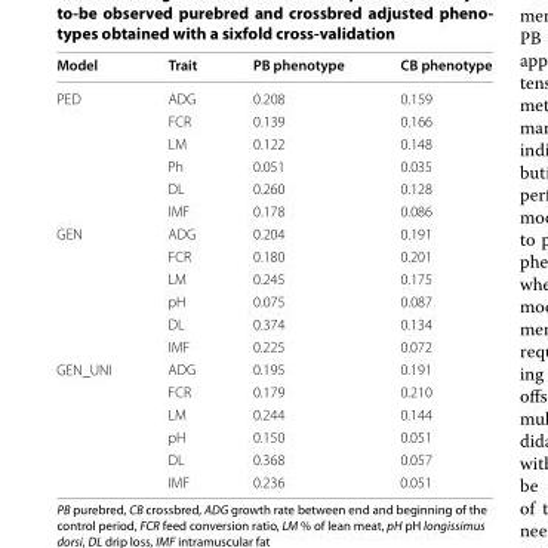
<table><thead><tr><td>Model</td><td>Trait</td><td>PB phenotype</td><td>CB phenotype</td></tr></thead><tbody><tr><td rowspan="6">PED</td><td>ADG</td><td>0.208</td><td>0.159</td></tr><tr><td>FCR</td><td>0.139</td><td>0.166</td></tr><tr><td>LM</td><td>0.122</td><td>0.148</td></tr><tr><td>Ph</td><td>0.051</td><td>0.035</td></tr><tr><td>DL</td><td>0.260</td><td>0.128</td></tr><tr><td>IMF</td><td>0.178</td><td>0.086</td></tr><tr><td rowspan="6">GEN</td><td>ADG</td><td>0.204</td><td>0.191</td></tr><tr><td>FCR</td><td>0.180</td><td>0.201</td></tr><tr><td>LM</td><td>0.245</td><td>0.175</td></tr><tr><td>pH</td><td>0.075</td><td>0.087</td></tr><tr><td>DL</td><td>0.374</td><td>0.134</td></tr><tr><td>IMF</td><td>0.225</td><td>0.072</td></tr><tr><td rowspan="6">GEN_UNI</td><td>ADG</td><td>0.195</td><td>0.191</td></tr><tr><td>FCR</td><td>0.179</td><td>0.210</td></tr><tr><td>LM</td><td>0.244</td><td>0.144</td></tr><tr><td>pH</td><td>0.150</td><td>0.051</td></tr><tr><td>DL</td><td>0.368</td><td>0.057</td></tr><tr><td>IMF</td><td>0.236</td><td>0.051</td></tr></tbody></table>